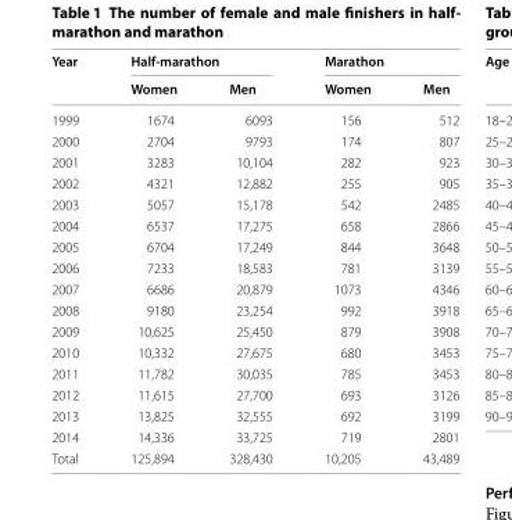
<table><thead><tr><td rowspan="2">Year</td><td colspan="2">Half-marathon</td><td colspan="2">Marathon</td></tr><tr><td>Women</td><td>Men</td><td>Women</td><td>Men</td></tr></thead><tbody><tr><td>1999</td><td>1674</td><td>6093</td><td>156</td><td>512</td></tr><tr><td>2000</td><td>2704</td><td>9793</td><td>174</td><td>807</td></tr><tr><td>2001</td><td>3283</td><td>10,104</td><td>282</td><td>923</td></tr><tr><td>2002</td><td>4321</td><td>12,882</td><td>255</td><td>905</td></tr><tr><td>2003</td><td>5057</td><td>15,178</td><td>542</td><td>2485</td></tr><tr><td>2004</td><td>6537</td><td>17,275</td><td>658</td><td>2866</td></tr><tr><td>2005</td><td>6704</td><td>17,249</td><td>844</td><td>3648</td></tr><tr><td>2006</td><td>7233</td><td>18,583</td><td>781</td><td>3139</td></tr><tr><td>2007</td><td>6686</td><td>20,879</td><td>1073</td><td>4346</td></tr><tr><td>2008</td><td>9180</td><td>23,254</td><td>992</td><td>3918</td></tr><tr><td>2009</td><td>10,625</td><td>25,450</td><td>879</td><td>3908</td></tr><tr><td>2010</td><td>10,332</td><td>27,675</td><td>680</td><td>3453</td></tr><tr><td>2011</td><td>11,782</td><td>30,035</td><td>785</td><td>3453</td></tr><tr><td>2012</td><td>11,615</td><td>27,700</td><td>693</td><td>3126</td></tr><tr><td>2013</td><td>13,825</td><td>32,555</td><td>692</td><td>3199</td></tr><tr><td>2014</td><td>14,336</td><td>33,725</td><td>719</td><td>2801</td></tr><tr><td>Total</td><td>125,894</td><td>328,430</td><td>10,205</td><td>43,489</td></tr></tbody></table>